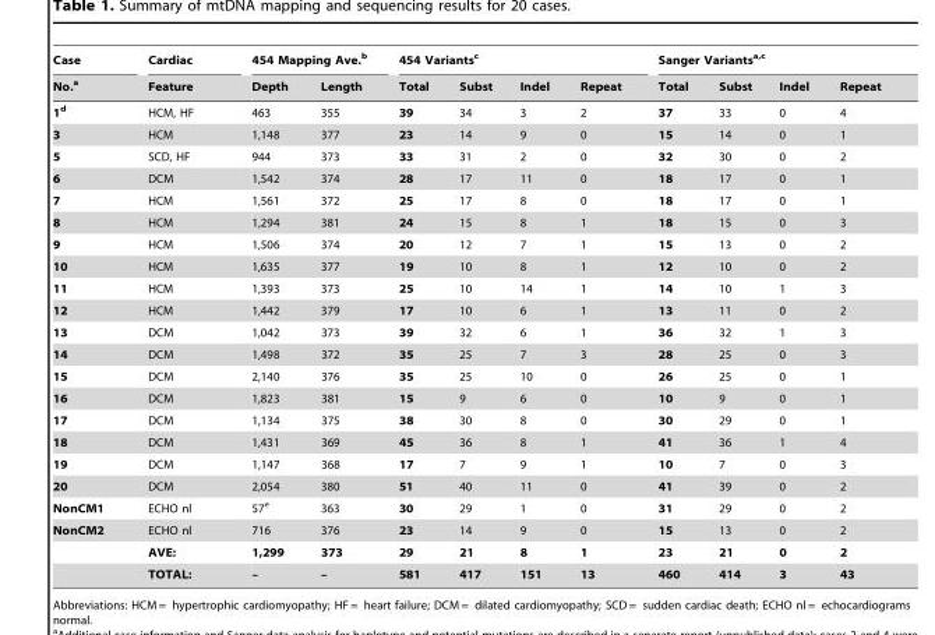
<table><thead><tr><td rowspan="2">Case No.<sup>a</sup></td><td rowspan="2">Cardiac Feature</td><td colspan="2">454 Mapping Ave.<sup>b</sup></td><td colspan="4">454 Variants<sup>c</sup></td><td colspan="4">Sanger Variantsa,c</td></tr><tr><td>Depth</td><td>Length</td><td>Total</td><td>Subst</td><td>Indel</td><td>Repeat</td><td>Total</td><td>Subst</td><td>Indel</td><td>Repeat</td></tr></thead><tbody><tr><td>1d</td><td>HCM, HF</td><td>463</td><td>355</td><td>39</td><td>34</td><td>3</td><td>2</td><td>37</td><td>33</td><td>0</td><td>4</td></tr><tr><td>3</td><td>HCM</td><td>1,148</td><td>377</td><td>23</td><td>14</td><td>9</td><td>0</td><td>15</td><td>14</td><td>0</td><td>1</td></tr><tr><td>5</td><td>SCD, HF</td><td>944</td><td>373</td><td>33</td><td>31</td><td>2</td><td>0</td><td>32</td><td>30</td><td>0</td><td>2</td></tr><tr><td>6</td><td>DCM</td><td>1,542</td><td>374</td><td>28</td><td>17</td><td>11</td><td>0</td><td>18</td><td>17</td><td>0</td><td>1</td></tr><tr><td>7</td><td>HCM</td><td>1,561</td><td>372</td><td>25</td><td>17</td><td>8</td><td>0</td><td>18</td><td>17</td><td>0</td><td>1</td></tr><tr><td>8</td><td>HCM</td><td>1,294</td><td>381</td><td>24</td><td>15</td><td>8</td><td>1</td><td>18</td><td>15</td><td>0</td><td>3</td></tr><tr><td>9</td><td>HCM</td><td>1,506</td><td>374</td><td>20</td><td>12</td><td>7</td><td>1</td><td>15</td><td>13</td><td>0</td><td>2</td></tr><tr><td>10</td><td>HCM</td><td>1,635</td><td>377</td><td>19</td><td>10</td><td>8</td><td>1</td><td>12</td><td>10</td><td>0</td><td>2</td></tr><tr><td>11</td><td>HCM</td><td>1,393</td><td>373</td><td>25</td><td>10</td><td>14</td><td>1</td><td>14</td><td>10</td><td>1</td><td>3</td></tr><tr><td>12</td><td>HCM</td><td>1,442</td><td>379</td><td>17</td><td>10</td><td>6</td><td>1</td><td>13</td><td>11</td><td>0</td><td>2</td></tr><tr><td>13</td><td>DCM</td><td>1,042</td><td>373</td><td>39</td><td>32</td><td>6</td><td>1</td><td>36</td><td>32</td><td>1</td><td>3</td></tr><tr><td>14</td><td>DCM</td><td>1,498</td><td>372</td><td>35</td><td>25</td><td>7</td><td>3</td><td>28</td><td>25</td><td>0</td><td>3</td></tr><tr><td>15</td><td>DCM</td><td>2,140</td><td>376</td><td>35</td><td>25</td><td>10</td><td>0</td><td>26</td><td>25</td><td>0</td><td>1</td></tr><tr><td>16</td><td>DCM</td><td>1,823</td><td>381</td><td>15</td><td>9</td><td>6</td><td>0</td><td>10</td><td>9</td><td>0</td><td>1</td></tr><tr><td>17</td><td>DCM</td><td>1,134</td><td>375</td><td>38</td><td>30</td><td>8</td><td>0</td><td>30</td><td>29</td><td>0</td><td>1</td></tr><tr><td>18</td><td>DCM</td><td>1,431</td><td>369</td><td>45</td><td>36</td><td>8</td><td>1</td><td>41</td><td>36</td><td>1</td><td>4</td></tr><tr><td>19</td><td>DCM</td><td>1,147</td><td>368</td><td>17</td><td>7</td><td>9</td><td>1</td><td>10</td><td>7</td><td>0</td><td>3</td></tr><tr><td>20</td><td>DCM</td><td>2,054</td><td>380</td><td>51</td><td>40</td><td>11</td><td>0</td><td>41</td><td>39</td><td>0</td><td>2</td></tr><tr><td>NonCM1</td><td>ECHO nl</td><td>57<sup>e</sup></td><td>363</td><td>30</td><td>29</td><td>1</td><td>0</td><td>31</td><td>29</td><td>0</td><td>2</td></tr><tr><td rowspan="3">NonCM2</td><td>ECHO nl</td><td>716</td><td>376</td><td>23</td><td>14</td><td>9</td><td>0</td><td>15</td><td>13</td><td>0</td><td>2</td></tr><tr><td>AVE:</td><td>1,299</td><td>373</td><td>29</td><td>21</td><td>8</td><td>1</td><td>23</td><td>21</td><td>0</td><td>2</td></tr><tr><td>TOTAL:</td><td>–</td><td>–</td><td>581</td><td>417</td><td>151</td><td>13</td><td>460</td><td>414</td><td>3</td><td>43</td></tr></tbody></table>